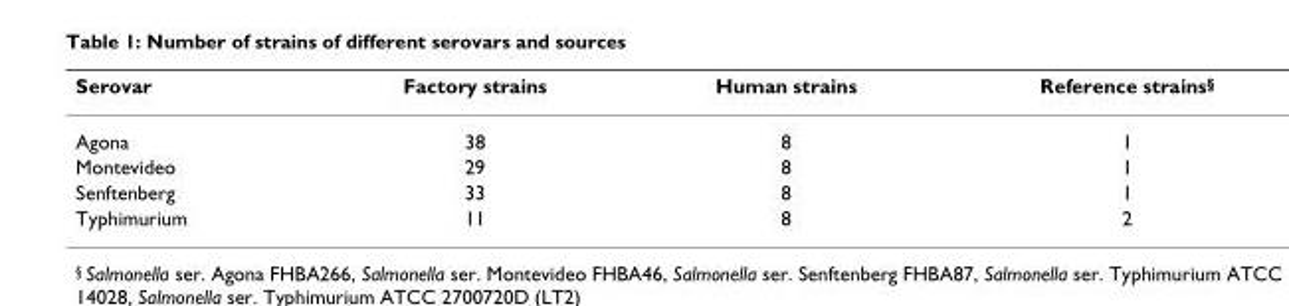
<table><thead><tr><td>Serovar</td><td>Factory strains</td><td>Human strains</td><td>Reference strains<sup>§</sup></td></tr></thead><tbody><tr><td>Agona</td><td>38</td><td>8</td><td>1</td></tr><tr><td>Montevideo</td><td>29</td><td>8</td><td>1</td></tr><tr><td>Senftenberg</td><td>33</td><td>8</td><td>1</td></tr><tr><td>Typhimurium</td><td>11</td><td>8</td><td>2</td></tr></tbody></table>